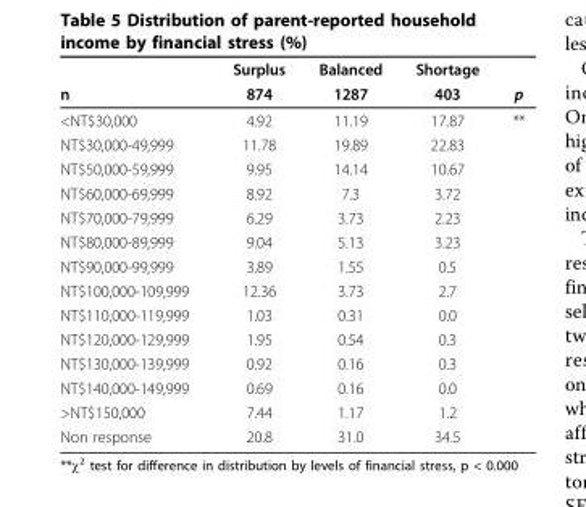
<table><thead><tr><td rowspan="2">n</td><td rowspan="2">Surplus 874</td><td rowspan="2">Balanced 1287</td><td rowspan="2">Shortage 403</td><td rowspan="2">p</td></tr><tr></tr></thead><tbody><tr><td>&lt;NT$30,000</td><td>4.92</td><td>11.19</td><td>17.87</td><td>**</td></tr><tr><td>NT$30,000-49,999</td><td>11.78</td><td>19.89</td><td>22.83</td><td></td></tr><tr><td>NT$50,000-59,999</td><td>9.95</td><td>14.14</td><td>10.67</td><td></td></tr><tr><td>NT$60,000-69,999</td><td>8.92</td><td>7.3</td><td>3.72</td><td></td></tr><tr><td>NT$70,000-79,999</td><td>6.29</td><td>3.73</td><td>2.23</td><td></td></tr><tr><td>NT$80,000-89,999</td><td>9.04</td><td>5.13</td><td>3.23</td><td></td></tr><tr><td>NT$90,000-99,999</td><td>3.89</td><td>1.55</td><td>0.5</td><td></td></tr><tr><td>NT$100,000-109,999</td><td>12.36</td><td>3.73</td><td>2.7</td><td></td></tr><tr><td>NT$110,000-119,999</td><td>1.03</td><td>0.31</td><td>0.0</td><td></td></tr><tr><td>NT$120,000-129,999</td><td>1.95</td><td>0.54</td><td>0.3</td><td></td></tr><tr><td>NT$130,000-139,999</td><td>0.92</td><td>0.16</td><td>0.3</td><td></td></tr><tr><td>NT$140,000-149,999</td><td>0.69</td><td>0.16</td><td>0.0</td><td></td></tr><tr><td>&gt;NT$150,000</td><td>7.44</td><td>1.17</td><td>1.2</td><td></td></tr><tr><td>Non response</td><td>20.8</td><td>31.0</td><td>34.5</td><td></td></tr></tbody></table>